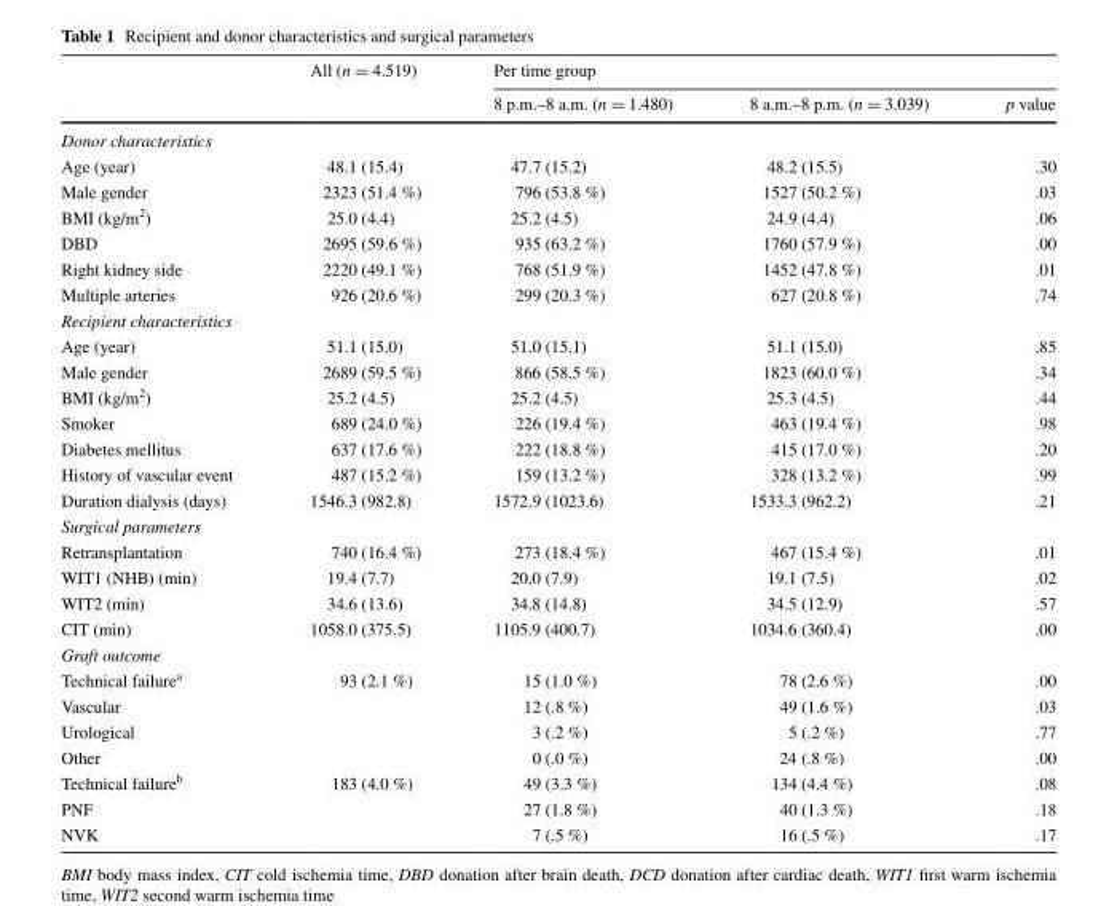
<table><thead><tr><td rowspan="2"></td><td rowspan="2">All (n = 4.519)</td><td colspan="3">Per time group</td></tr><tr><td>8 p.m.–8 a.m. (n = 1.480)</td><td>8 a.m.–8 p.m. (n = 3.039)</td><td>p value</td></tr></thead><tbody><tr><td colspan="5">Donor characteristics</td></tr><tr><td>Age (year)</td><td>48.1 (15.4)</td><td>47.7 (15.2)</td><td>48.2 (15.5)</td><td>.30</td></tr><tr><td>Male gender</td><td>2323 (51.4 %)</td><td>796 (53.8 %)</td><td>1527 (50.2 %)</td><td>.03</td></tr><tr><td>BMI (kg/m<sup>2</sup>)</td><td>25.0 (4.4)</td><td>25.2 (4.5)</td><td>24.9 (4.4)</td><td>.06</td></tr><tr><td>DBD</td><td>2695 (59.6 %)</td><td>935 (63.2 %)</td><td>1760 (57.9 %)</td><td>.00</td></tr><tr><td>Right kidney side</td><td>2220 (49.1 %)</td><td>768 (51.9 %)</td><td>1452 (47.8 %)</td><td>.01</td></tr><tr><td>Multiple arteries</td><td>926 (20.6 %)</td><td>299 (20.3 %)</td><td>627 (20.8 %)</td><td>.74</td></tr><tr><td colspan="5">Recipient characteristics</td></tr><tr><td>Age (year)</td><td>51.1 (15.0)</td><td>51.0 (15.1)</td><td>51.1 (15.0)</td><td>.85</td></tr><tr><td>Male gender</td><td>2689 (59.5 %)</td><td>866 (58.5 %)</td><td>1823 (60.0 %)</td><td>.34</td></tr><tr><td>BMI (kg/m<sup>2</sup>)</td><td>25.2 (4.5)</td><td>25.2 (4.5)</td><td>25.3 (4.5)</td><td>.44</td></tr><tr><td>Smoker</td><td>689 (24.0 %)</td><td>226 (19.4 %)</td><td>463 (19.4 %)</td><td>.98</td></tr><tr><td>Diabetes mellitus</td><td>637 (17.6 %)</td><td>222 (18.8 %)</td><td>415 (17.0 %)</td><td>.20</td></tr><tr><td>History of vascular event</td><td>487 (15.2 %)</td><td>159 (13.2 %)</td><td>328 (13.2 %)</td><td>.99</td></tr><tr><td>Duration dialysis (days)</td><td>1546.3 (982.8)</td><td>1572.9 (1023.6)</td><td>1533.3 (962.2)</td><td>.21</td></tr><tr><td colspan="5">Surgical parameters</td></tr><tr><td>Retransplantation</td><td>740 (16.4 %)</td><td>273 (18.4 %)</td><td>467 (15.4 %)</td><td>.01</td></tr><tr><td>WIT1 (NHB) (min)</td><td>19.4 (7.7)</td><td>20.0 (7.9)</td><td>19.1 (7.5)</td><td>.02</td></tr><tr><td>WIT2 (min)</td><td>34.6 (13.6)</td><td>34.8 (14.8)</td><td>34.5 (12.9)</td><td>.57</td></tr><tr><td>CIT (min)</td><td>1058.0 (375.5)</td><td>1105.9 (400.7)</td><td>1034.6 (360.4)</td><td>.00</td></tr><tr><td colspan="5">Graft outcome</td></tr><tr><td>Technical failure<sup>a</sup></td><td>93 (2.1 %)</td><td>15 (1.0 %)</td><td>78 (2.6 %)</td><td>.00</td></tr><tr><td>Vascular</td><td></td><td>12 (.8 %)</td><td>49 (1.6 %)</td><td>.03</td></tr><tr><td>Urological</td><td></td><td>3 (.2 %)</td><td>5 (.2 %)</td><td>.77</td></tr><tr><td>Other</td><td></td><td>0 (.0 %)</td><td>24 (.8 %)</td><td>.00</td></tr><tr><td>Technical failure<sup>b</sup></td><td>183 (4.0 %)</td><td>49 (3.3 %)</td><td>134 (4.4 %)</td><td>.08</td></tr><tr><td>PNF</td><td></td><td>27 (1.8 %)</td><td>40 (1.3 %)</td><td>.18</td></tr><tr><td>NVK</td><td></td><td>7 (.5 %)</td><td>16 (.5 %)</td><td>.17</td></tr></tbody></table>